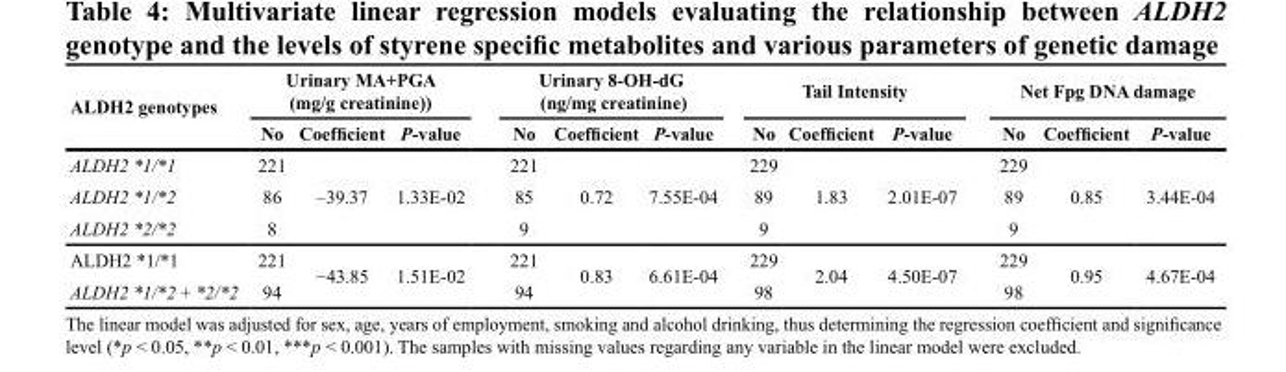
<table><thead><tr><td rowspan="2">ALDH2 genotypes</td><td colspan="3">Urinary MA+PGA (mg/g creatinine))</td><td colspan="3">Urinary 8-OH-dG (ng/mg creatinine)</td><td colspan="3">Tail Intensity</td><td colspan="3">Net Fpg DNA damage</td></tr><tr><td>No</td><td>Coefficient</td><td>P-value</td><td>No</td><td>Coefficient</td><td>P-value</td><td>No</td><td>Coefficient</td><td>P-value</td><td>No</td><td>Coefficient</td><td>P-value</td></tr></thead><tbody><tr><td>ALDH2 *1/*1</td><td>221</td><td rowspan="3">–39.37</td><td rowspan="3">1.33E-02</td><td>221</td><td rowspan="3">0.72</td><td rowspan="3">7.55E-04</td><td>229</td><td rowspan="3">1.83</td><td rowspan="3">2.01E-07</td><td>229</td><td rowspan="3">0.85</td><td rowspan="3">3.44E-04</td></tr><tr><td>ALDH2 *1/*2</td><td>86</td><td>85</td><td>89</td><td>89</td></tr><tr><td>ALDH2 *2/*2</td><td>8</td><td>9</td><td>9</td><td>9</td></tr><tr><td>ALDH2 *1/*1</td><td>221</td><td rowspan="2">−43.85</td><td rowspan="2">1.51E-02</td><td>221</td><td rowspan="2">0.83</td><td rowspan="2">6.61E-04</td><td>229</td><td rowspan="2">2.04</td><td rowspan="2">4.50E-07</td><td>229</td><td rowspan="2">0.95</td><td rowspan="2">4.67E-04</td></tr><tr><td>ALDH2 *1/*2 + *2/*2</td><td>94</td><td>94</td><td>98</td><td>98</td></tr></tbody></table>